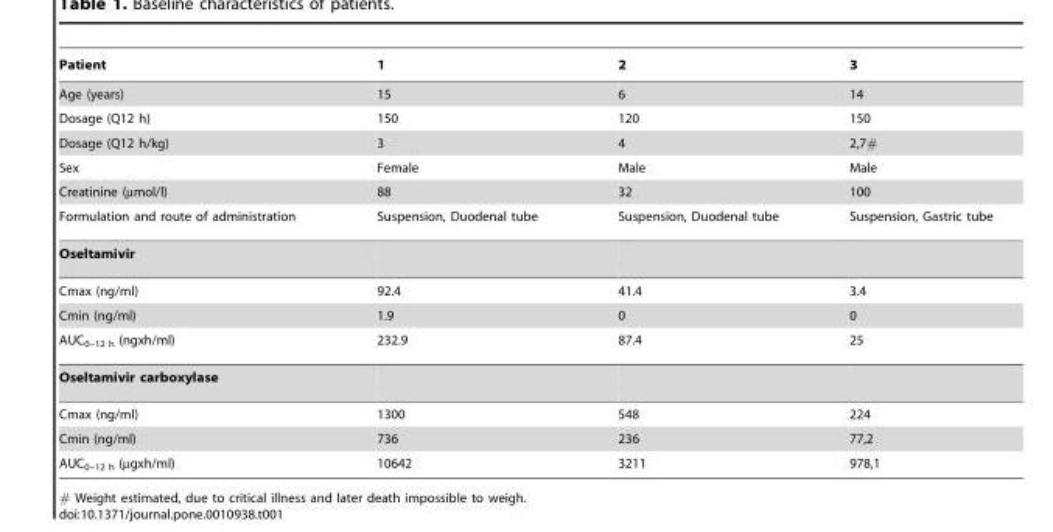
<table><thead><tr><td>Patient</td><td>1</td><td>2</td><td>3</td></tr></thead><tbody><tr><td>Age (years)</td><td>15</td><td>6</td><td>14</td></tr><tr><td>Dosage (Q12 h)</td><td>150</td><td>120</td><td>150</td></tr><tr><td>Dosage (Q12 h/kg)</td><td>3</td><td>4</td><td>2,7#</td></tr><tr><td>Sex</td><td>Female</td><td>Male</td><td>Male</td></tr><tr><td>Creatinine (µmol/l)</td><td>88</td><td>32</td><td>100</td></tr><tr><td>Formulation and route of administration</td><td>Suspension, Duodenal tube</td><td>Suspension, Duodenal tube</td><td>Suspension, Gastric tube</td></tr><tr><td colspan="4">Oseltamivir</td></tr><tr><td>Cmax (ng/ml)</td><td>92.4</td><td>41.4</td><td>3.4</td></tr><tr><td>Cmin (ng/ml)</td><td>1.9</td><td>0</td><td>0</td></tr><tr><td>AUC<sub>0–12 h</sub> (ngxh/ml)</td><td>232.9</td><td>87.4</td><td>25</td></tr><tr><td colspan="4">Oseltamivir carboxylase</td></tr><tr><td>Cmax (ng/ml)</td><td>1300</td><td>548</td><td>224</td></tr><tr><td>Cmin (ng/ml)</td><td>736</td><td>236</td><td>77,2</td></tr><tr><td>AUC<sub>0–12 h</sub> (µgxh/ml)</td><td>10642</td><td>3211</td><td>978,1</td></tr></tbody></table>